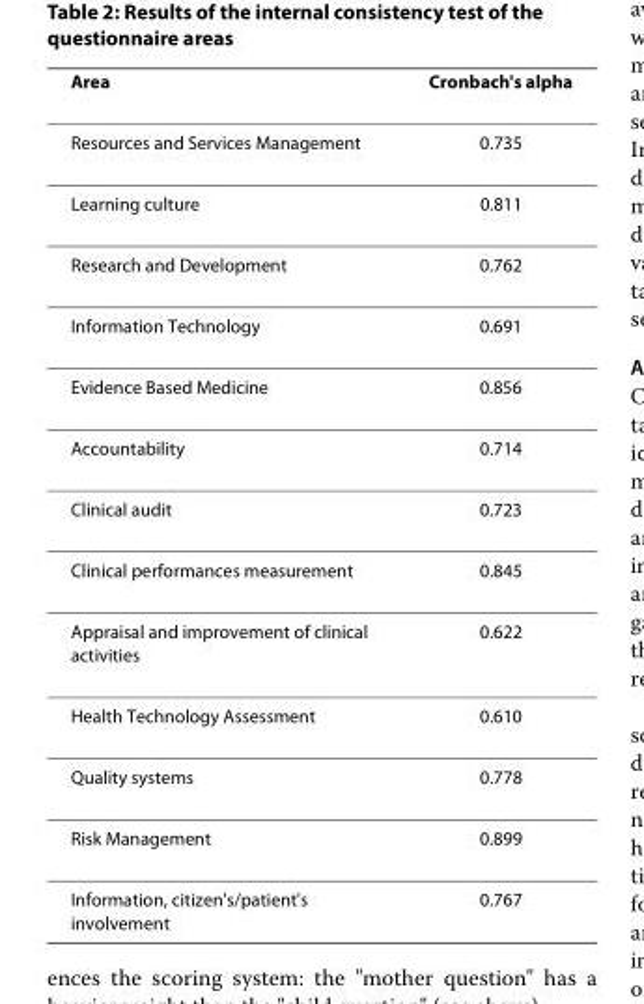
<table><thead><tr><td>Area</td><td>Cronbach&#x27;s alpha</td></tr></thead><tbody><tr><td>Resources and Services Management</td><td>0.735</td></tr><tr><td>Learning culture</td><td>0.811</td></tr><tr><td>Research and Development</td><td>0.762</td></tr><tr><td>Information Technology</td><td>0.691</td></tr><tr><td>Evidence Based Medicine</td><td>0.856</td></tr><tr><td>Accountability</td><td>0.714</td></tr><tr><td>Clinical audit</td><td>0.723</td></tr><tr><td>Clinical performances measurement</td><td>0.845</td></tr><tr><td>Appraisal and improvement of clinical activities</td><td>0.622</td></tr><tr><td>Health Technology Assessment</td><td>0.610</td></tr><tr><td>Quality systems</td><td>0.778</td></tr><tr><td>Risk Management</td><td>0.899</td></tr><tr><td>Information, citizen&#x27;s/patient&#x27;s involvement</td><td>0.767</td></tr></tbody></table>